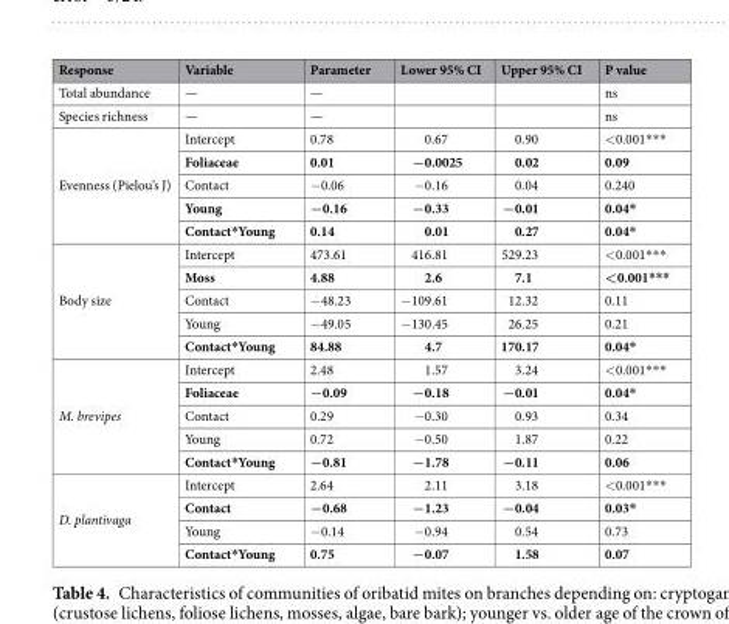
<table><thead><tr><td>Response</td><td>Variable</td><td>Parameter</td><td>Lower 95% CI</td><td>Upper 95% CI</td><td>P value</td></tr></thead><tbody><tr><td>Total abundance</td><td>—</td><td>—</td><td></td><td></td><td>ns</td></tr><tr><td>Species richness</td><td>—</td><td>—</td><td></td><td></td><td>ns</td></tr><tr><td rowspan="5">Evenness (Pielou’s J)</td><td>Intercept</td><td>0.78</td><td>0.67</td><td>0.90</td><td>&lt;0.001***</td></tr><tr><td>Foliaceae</td><td>0.01</td><td>−0.0025</td><td>0.02</td><td>0.09</td></tr><tr><td>Contact</td><td>−0.06</td><td>−0.16</td><td>0.04</td><td>0.240</td></tr><tr><td>Young</td><td>−0.16</td><td>−0.33</td><td>−0.01</td><td>0.04*</td></tr><tr><td>Contact*Young</td><td>0.14</td><td>0.01</td><td>0.27</td><td>0.04*</td></tr><tr><td rowspan="5">Body size</td><td>Intercept</td><td>473.61</td><td>416.81</td><td>529.23</td><td>&lt;0.001***</td></tr><tr><td>Moss</td><td>4.88</td><td>2.6</td><td>7.1</td><td>&lt;0.001***</td></tr><tr><td>Contact</td><td>−48.23</td><td>−109.61</td><td>12.32</td><td>0.11</td></tr><tr><td>Young</td><td>−49.05</td><td>−130.45</td><td>26.25</td><td>0.21</td></tr><tr><td>Contact*Young</td><td>84.88</td><td>4.7</td><td>170.17</td><td>0.04*</td></tr><tr><td rowspan="5">M. brevipes</td><td>Intercept</td><td>2.48</td><td>1.57</td><td>3.24</td><td>&lt;0.001***</td></tr><tr><td>Foliaceae</td><td>−0.09</td><td>−0.18</td><td>−0.01</td><td>0.04*</td></tr><tr><td>Contact</td><td>0.29</td><td>−0.30</td><td>0.93</td><td>0.34</td></tr><tr><td>Young</td><td>0.72</td><td>−0.50</td><td>1.87</td><td>0.22</td></tr><tr><td>Contact*Young</td><td>−0.81</td><td>−1.78</td><td>−0.11</td><td>0.06</td></tr><tr><td rowspan="4">D. plantivaga</td><td>Intercept</td><td>2.64</td><td>2.11</td><td>3.18</td><td>&lt;0.001***</td></tr><tr><td>Contact</td><td>−0.68</td><td>−1.23</td><td>−0.04</td><td>0.03*</td></tr><tr><td>Young</td><td>−0.14</td><td>−0.94</td><td>0.54</td><td>0.73</td></tr><tr><td>Contact*Young</td><td>0.75</td><td>−0.07</td><td>1.58</td><td>0.07</td></tr></tbody></table>